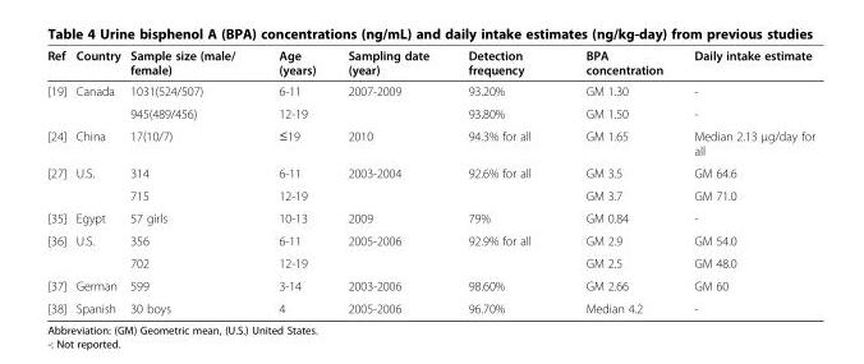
<table><thead><tr><td>Ref</td><td>Country</td><td>Sample size (male/ female)</td><td>Age (years)</td><td>Sampling date (year)</td><td>Detection frequency</td><td>BPA concentration</td><td>Daily intake estimate</td></tr></thead><tbody><tr><td rowspan="2">[19]</td><td>Canada</td><td>1031(524/507)</td><td>6-11</td><td>2007-2009</td><td>93.20%</td><td>GM 1.30</td><td>-</td></tr><tr><td></td><td>945(489/456)</td><td>12-19</td><td></td><td>93.80%</td><td>GM 1.50</td><td>-</td></tr><tr><td>[24]</td><td>China</td><td>17(10/7)</td><td>≤19</td><td>2010</td><td>94.3% for all</td><td>GM 1.65</td><td>Median 2.13 μg/day for all</td></tr><tr><td rowspan="2">[27]</td><td>U.S.</td><td>314</td><td>6-11</td><td>2003-2004</td><td>92.6% for all</td><td>GM 3.5</td><td>GM 64.6</td></tr><tr><td></td><td>715</td><td>12-19</td><td></td><td></td><td>GM 3.7</td><td>GM 71.0</td></tr><tr><td>[35]</td><td>Egypt</td><td>57 girls</td><td>10-13</td><td>2009</td><td>79%</td><td>GM 0.84</td><td>-</td></tr><tr><td rowspan="2">[36]</td><td>U.S.</td><td>356</td><td>6-11</td><td>2005-2006</td><td>92.9% for all</td><td>GM 2.9</td><td>GM 54.0</td></tr><tr><td></td><td>702</td><td>12-19</td><td></td><td></td><td>GM 2.5</td><td>GM 48.0</td></tr><tr><td>[37]</td><td>German</td><td>599</td><td>3-14</td><td>2003-2006</td><td>98.60%</td><td>GM 2.66</td><td>GM 60</td></tr><tr><td>[38]</td><td>Spanish</td><td>30 boys</td><td>4</td><td>2005-2006</td><td>96.70%</td><td>Median 4.2</td><td>-</td></tr></tbody></table>